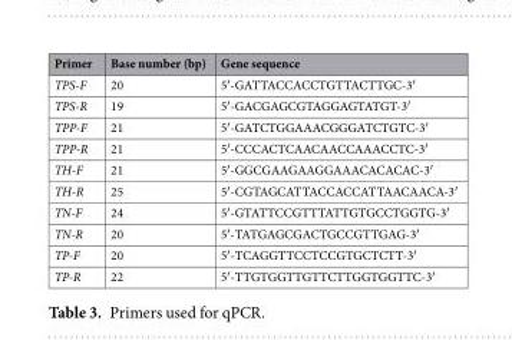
<table><thead><tr><td>Primer</td><td>Base number (bp)</td><td>Gene sequence</td></tr></thead><tbody><tr><td>TPS-F</td><td>20</td><td>5′-GATTACCACCTGTTACTTGC-3′</td></tr><tr><td>TPS-R</td><td>19</td><td>5′-GACGAGCGTAGGAGTATGT-3′</td></tr><tr><td>TPP-F</td><td>21</td><td>5′-GATCTGGAAACGGGATCTGTC-3′</td></tr><tr><td>TPP-R</td><td>21</td><td>5′-CCCACTCAACAACCAAACCTC-3′</td></tr><tr><td>TH-F</td><td>21</td><td>5′-GGCGAAGAAGGAAACACACAC-3′</td></tr><tr><td>TH-R</td><td>25</td><td>5′-CGTAGCATTACCACCATTAACAACA-3′</td></tr><tr><td>TN-F</td><td>24</td><td>5′-GTATTCCGTTTATTGTGCCTGGTG-3′</td></tr><tr><td>TN-R</td><td>20</td><td>5′-TATGAGCGACTGCCGTTGAG-3′</td></tr><tr><td>TP-F</td><td>20</td><td>5′-TCAGGTTCCTCCGTGCTCTT-3′</td></tr><tr><td>TP-R</td><td>22</td><td>5′-TTGTGGTTGTTCTTGGTGGTTC-3′</td></tr></tbody></table>